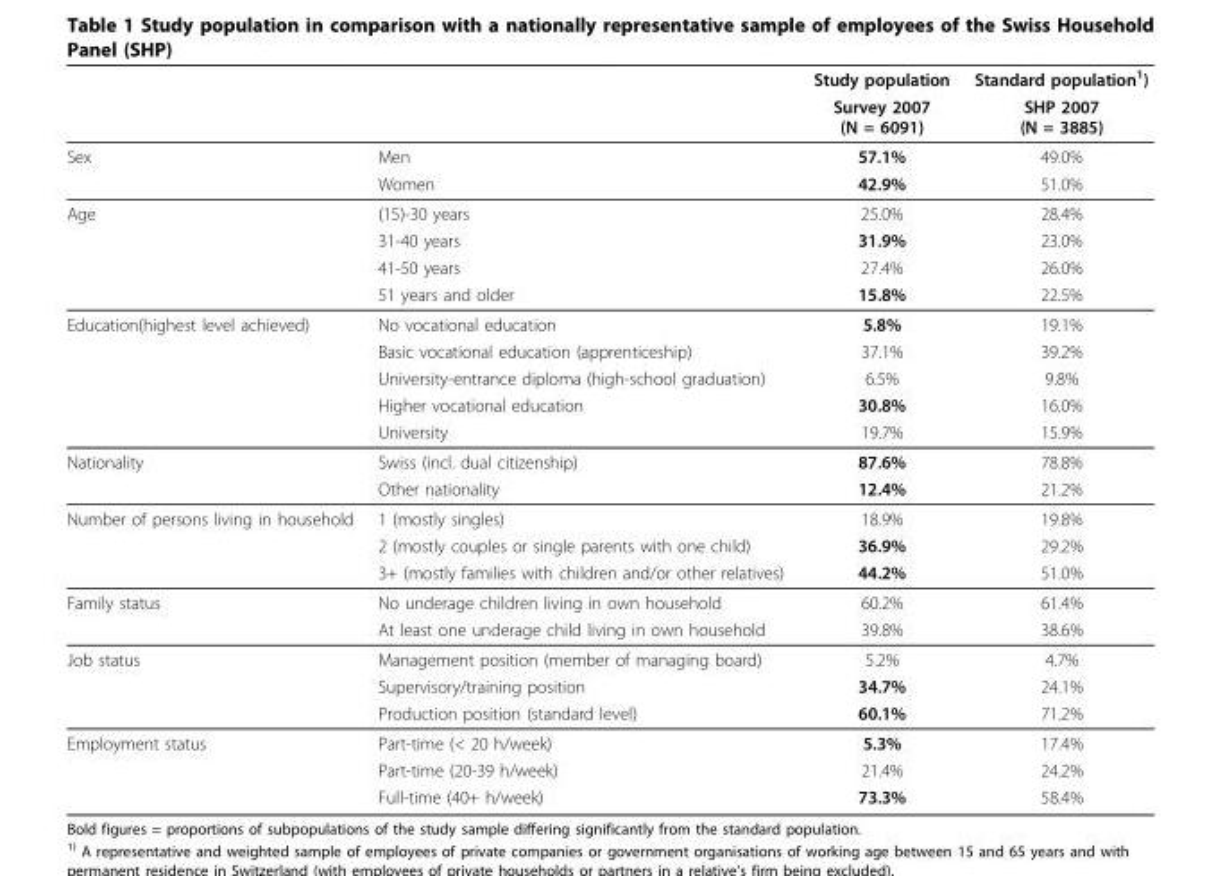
<table><thead><tr><td rowspan="2"></td><td rowspan="2"></td><td rowspan="2">Study population Survey 2007 (N = 6091)</td><td rowspan="2">Standard population1) SHP 2007 (N = 3885)</td></tr><tr></tr></thead><tbody><tr><td rowspan="2">Sex</td><td>Men</td><td>57.1%</td><td>49.0%</td></tr><tr><td>Women</td><td>42.9%</td><td>51.0%</td></tr><tr><td rowspan="4">Age</td><td>(15)-30 years</td><td>25.0%</td><td>28.4%</td></tr><tr><td>31-40 years</td><td>31.9%</td><td>23.0%</td></tr><tr><td>41-50 years</td><td>27.4%</td><td>26.0%</td></tr><tr><td>51 years and older</td><td>15.8%</td><td>22.5%</td></tr><tr><td rowspan="5">Education(highest level achieved)</td><td>No vocational education</td><td>5.8%</td><td>19.1%</td></tr><tr><td>Basic vocational education (apprenticeship)</td><td>37.1%</td><td>39.2%</td></tr><tr><td>University-entrance diploma (high-school graduation)</td><td>6.5%</td><td>9.8%</td></tr><tr><td>Higher vocational education</td><td>30.8%</td><td>16.0%</td></tr><tr><td>University</td><td>19.7%</td><td>15.9%</td></tr><tr><td rowspan="2">Nationality</td><td>Swiss (incl. dual citizenship)</td><td>87.6%</td><td>78.8%</td></tr><tr><td>Other nationality</td><td>12.4%</td><td>21.2%</td></tr><tr><td rowspan="3">Number of persons living in household</td><td>1 (mostly singles)</td><td>18.9%</td><td>19.8%</td></tr><tr><td>2 (mostly couples or single parents with one child)</td><td>36.9%</td><td>29.2%</td></tr><tr><td>3+ (mostly families with children and/or other relatives)</td><td>44.2%</td><td>51.0%</td></tr><tr><td rowspan="2">Family status</td><td>No underage children living in own household</td><td>60.2%</td><td>61.4%</td></tr><tr><td>At least one underage child living in own household</td><td>39.8%</td><td>38.6%</td></tr><tr><td rowspan="3">Job status</td><td>Management position (member of managing board)</td><td>5.2%</td><td>4.7%</td></tr><tr><td>Supervisory/training position</td><td>34.7%</td><td>24.1%</td></tr><tr><td>Production position (standard level)</td><td>60.1%</td><td>71.2%</td></tr><tr><td rowspan="3">Employment status</td><td>Part-time (&lt; 20 h/week)</td><td>5.3%</td><td>17.4%</td></tr><tr><td>Part-time (20-39 h/week)</td><td>21.4%</td><td>24.2%</td></tr><tr><td>Full-time (40+ h/week)</td><td>73.3%</td><td>58.4%</td></tr></tbody></table>